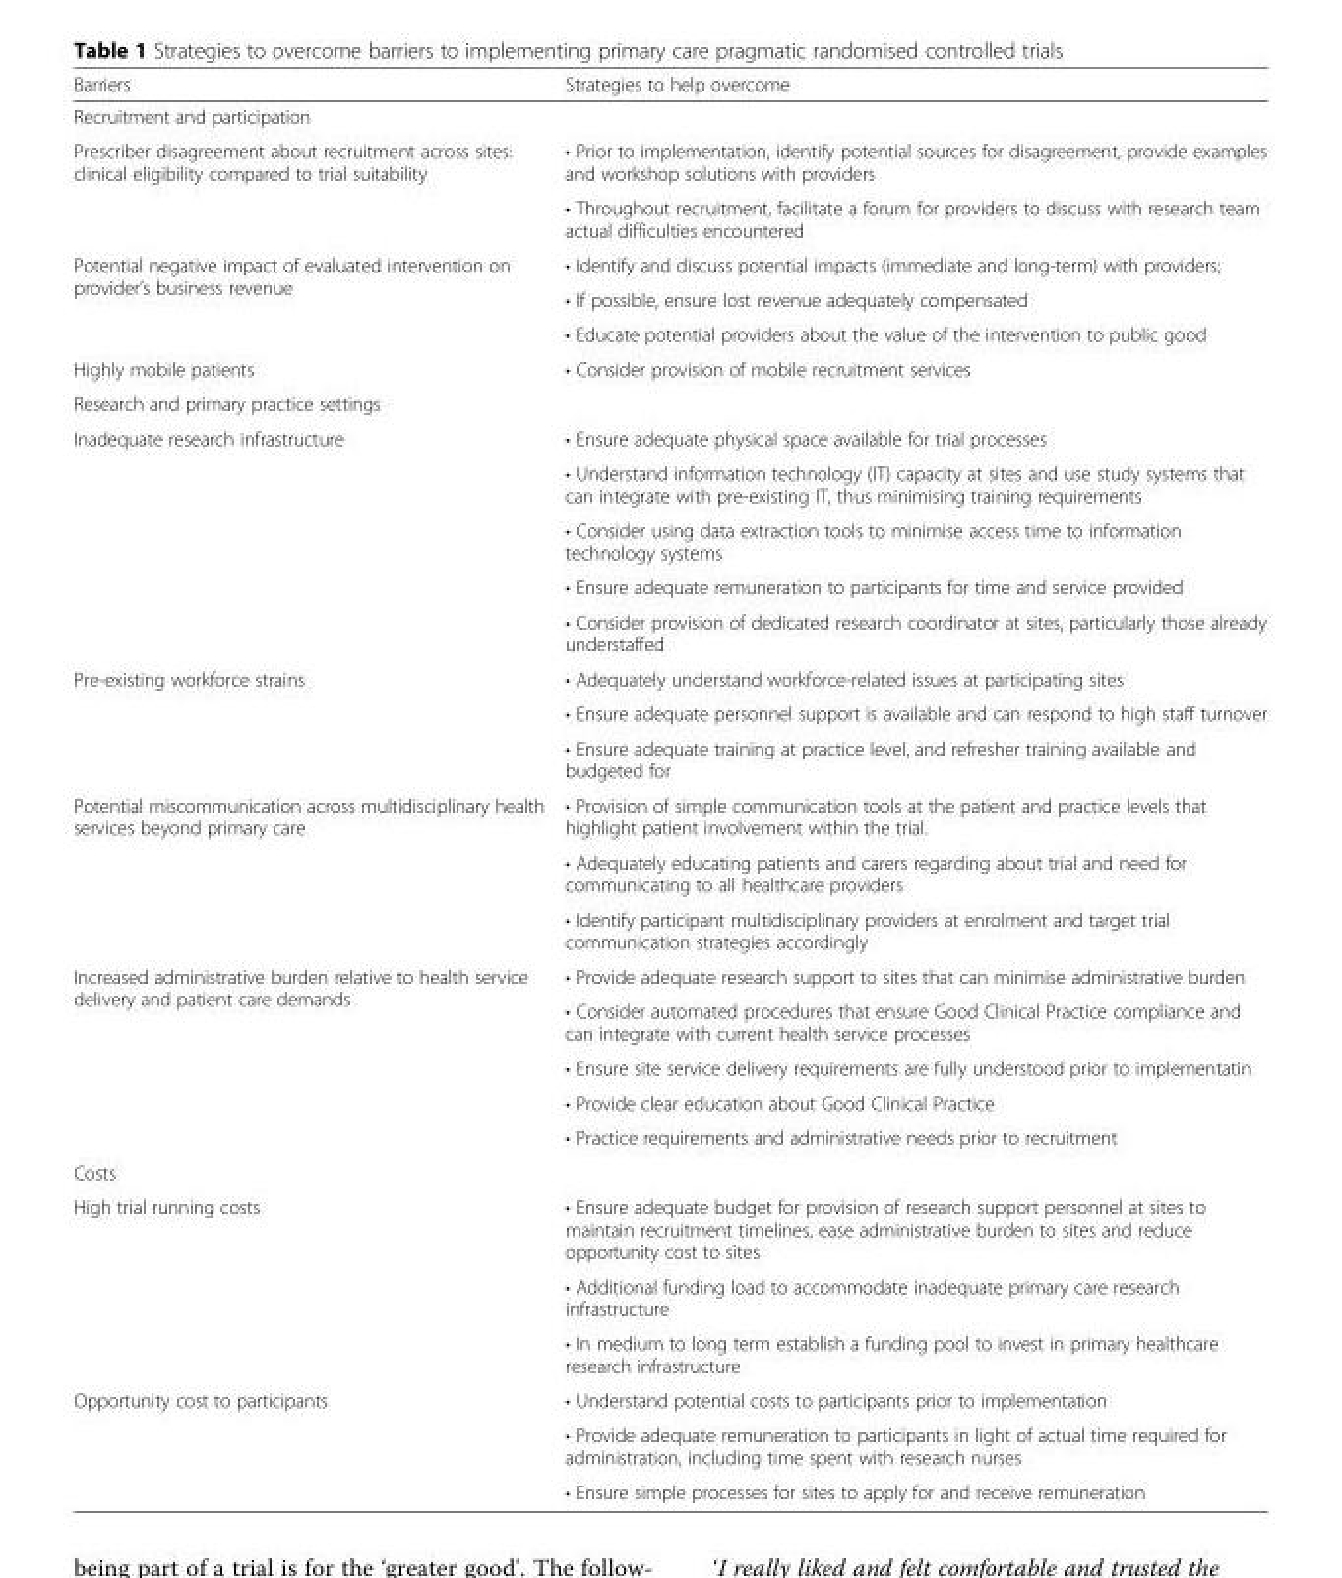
<table><thead><tr><td>Barriers</td><td>Strategies to help overcome</td></tr></thead><tbody><tr><td colspan="2">Recruitment and participation</td></tr><tr><td rowspan="2">Prescriber disagreement about recruitment across sites: clinical eligibility compared to trial suitability</td><td>• Prior to implementation, identify potential sources for disagreement, provide examples and workshop solutions with providers</td></tr><tr><td>• Throughout recruitment, facilitate a forum for providers to discuss with research team actual difficulties encountered</td></tr><tr><td rowspan="3">Potential negative impact of evaluated intervention on provider’s business revenue</td><td>• Identify and discuss potential impacts (immediate and long-term) with providers;</td></tr><tr><td>• If possible, ensure lost revenue adequately compensated</td></tr><tr><td>• Educate potential providers about the value of the intervention to public good</td></tr><tr><td>Highly mobile patients</td><td>• Consider provision of mobile recruitment services</td></tr><tr><td colspan="2">Research and primary practice settings</td></tr><tr><td rowspan="5">Inadequate research infrastructure</td><td>• Ensure adequate physical space available for trial processes</td></tr><tr><td>• Understand information technology (IT) capacity at sites and use study systems that can integrate with pre-existing IT, thus minimising training requirements</td></tr><tr><td>• Consider using data extraction tools to minimise access time to information technology systems</td></tr><tr><td>• Ensure adequate remuneration to participants for time and service provided</td></tr><tr><td>• Consider provision of dedicated research coordinator at sites, particularly those already understaffed</td></tr><tr><td rowspan="3">Pre-existing workforce strains</td><td>• Adequately understand workforce-related issues at participating sites</td></tr><tr><td>• Ensure adequate personnel support is available and can respond to high staff turnover</td></tr><tr><td>• Ensure adequate training at practice level, and refresher training available and budgeted for</td></tr><tr><td rowspan="3">Potential miscommunication across multidisciplinary health services beyond primary care</td><td>• Provision of simple communication tools at the patient and practice levels that highlight patient involvement within the trial.</td></tr><tr><td>• Adequately educating patients and carers regarding about trial and need for communicating to all healthcare providers</td></tr><tr><td>• Identify participant multidisciplinary providers at enrolment and target trial communication strategies accordingly</td></tr><tr><td rowspan="5">Increased administrative burden relative to health service delivery and patient care demands</td><td>• Provide adequate research support to sites that can minimise administrative burden</td></tr><tr><td>• Consider automated procedures that ensure Good Clinical Practice compliance and can integrate with current health service processes</td></tr><tr><td>• Ensure site service delivery requirements are fully understood prior to implementatin</td></tr><tr><td>• Provide clear education about Good Clinical Practice</td></tr><tr><td>• Practice requirements and administrative needs prior to recruitment</td></tr><tr><td colspan="2">Costs</td></tr><tr><td rowspan="3">High trial running costs</td><td>• Ensure adequate budget for provision of research support personnel at sites to maintain recruitment timelines, ease administrative burden to sites and reduce opportunity cost to sites</td></tr><tr><td>• Additional funding load to accommodate inadequate primary care research infrastructure</td></tr><tr><td>• In medium to long term establish a funding pool to invest in primary healthcare research infrastructure</td></tr><tr><td rowspan="3">Opportunity cost to participants</td><td>• Understand potential costs to participants prior to implementation</td></tr><tr><td>• Provide adequate remuneration to participants in light of actual time required for administration, including time spent with research nurses</td></tr><tr><td>• Ensure simple processes for sites to apply for and receive remuneration</td></tr></tbody></table>